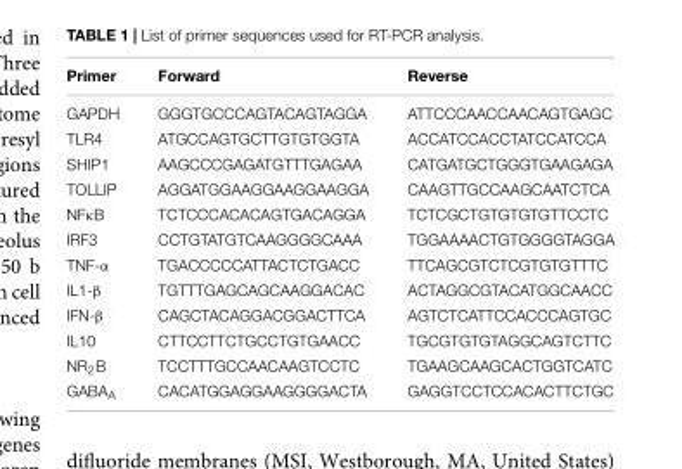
<table><thead><tr><td>Primer</td><td>Forward</td><td>Reverse</td></tr></thead><tbody><tr><td>GAPDH</td><td>GGGTGCCCAGTACAGTAGGA</td><td>ATTCCCAACCAACAGTGAGC</td></tr><tr><td>TLR4</td><td>ATGCCAGTGCTTGTGTGGTA</td><td>ACCATCCACCTATCCATCCA</td></tr><tr><td>SHIP1</td><td>AAGCCCGAGATGTTTGAGAA</td><td>CATGATGCTGGGTGAAGAGA</td></tr><tr><td>TOLLIP</td><td>AGGATGGAAGGAAGGAAGGA</td><td>CAAGTTGCCAAGCAATCTCA</td></tr><tr><td>NFκB</td><td>TCTCCCACACAGTGACAGGA</td><td>TCTCGCTGTGTGTGTTCCTC</td></tr><tr><td>IRF3</td><td>CCTGTATGTCAAGGGGCAAA</td><td>TGGAAAACTGTGGGGTAGGA</td></tr><tr><td>TNF-α</td><td>TGACCCCCATTACTCTGACC</td><td>TTCAGCGTCTCGTGTGTTTC</td></tr><tr><td>IL1-β</td><td>TGTTTGAGCAGCAAGGACAC</td><td>ACTAGGCGTACATGGCAACC</td></tr><tr><td>IFN-β</td><td>CAGCTACAGGACGGACTTCA</td><td>AGTCTCATTCCACCCAGTGC</td></tr><tr><td>IL10</td><td>CTTCCTTCTGCCTGTGAACC</td><td>TGCGTGTGTAGGCAGTCTTC</td></tr><tr><td>NR<sub>2</sub>B</td><td>TCCTTTGCCAACAAGTCCTC</td><td>TGAAGCAAGCACTGGTCATC</td></tr><tr><td>GABA<sub>A</sub></td><td>CACATGGAGGAAGGGGACTA</td><td>GAGGTCCTCCACACTTCTGC</td></tr></tbody></table>